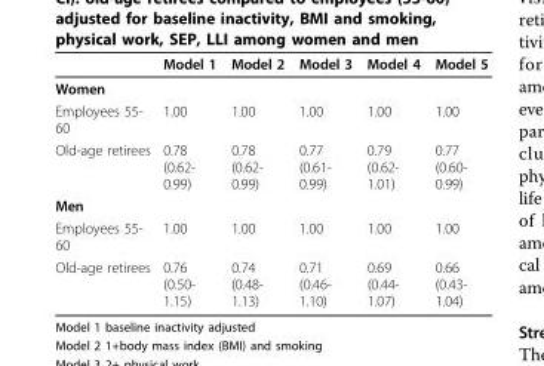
<table><thead><tr><td></td><td>Model 1</td><td>Model 2</td><td>Model 3</td><td>Model 4</td><td>Model 5</td></tr></thead><tbody><tr><td colspan="6">Women</td></tr><tr><td>Employees 55- 60</td><td>1.00</td><td>1.00</td><td>1.00</td><td>1.00</td><td>1.00</td></tr><tr><td>Old-age retirees</td><td>0.78 (0.62- 0.99)</td><td>0.78 (0.62- 0.99)</td><td>0.77 (0.61- 0.99)</td><td>0.79 (0.62- 1.01)</td><td>0.77 (0.60- 0.99)</td></tr><tr><td colspan="6">Men</td></tr><tr><td>Employees 55- 60</td><td>1.00</td><td>1.00</td><td>1.00</td><td>1.00</td><td>1.00</td></tr><tr><td>Old-age retirees</td><td>0.76 (0.50- 1.15)</td><td>0.74 (0.48- 1.13)</td><td>0.71 (0.46- 1.10)</td><td>0.69 (0.44- 1.07)</td><td>0.66 (0.43- 1.04)</td></tr></tbody></table>